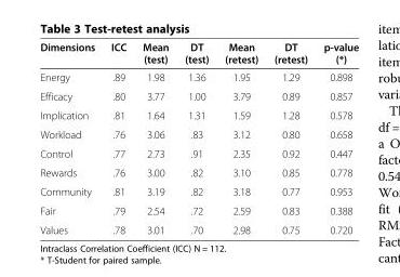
<table><thead><tr><td>Dimensions</td><td>ICC</td><td>Mean (test)</td><td>DT (test)</td><td>Mean (retest)</td><td>DT (retest)</td><td>p-value (*)</td></tr></thead><tbody><tr><td>Energy</td><td>.89</td><td>1.98</td><td>1.36</td><td>1.95</td><td>1.29</td><td>0.898</td></tr><tr><td>Efficacy</td><td>.80</td><td>3.77</td><td>1.00</td><td>3.79</td><td>0.89</td><td>0.857</td></tr><tr><td>Implication</td><td>.81</td><td>1.64</td><td>1.31</td><td>1.59</td><td>1.28</td><td>0.578</td></tr><tr><td>Workload</td><td>.76</td><td>3.06</td><td>.83</td><td>3.12</td><td>0.80</td><td>0.658</td></tr><tr><td>Control</td><td>.77</td><td>2.73</td><td>.91</td><td>2.35</td><td>0.92</td><td>0.447</td></tr><tr><td>Rewards</td><td>.76</td><td>3.00</td><td>.82</td><td>3.10</td><td>0.85</td><td>0.778</td></tr><tr><td>Community</td><td>.81</td><td>3.19</td><td>.82</td><td>3.18</td><td>0.77</td><td>0.953</td></tr><tr><td>Fair</td><td>.79</td><td>2.54</td><td>.72</td><td>2.59</td><td>0.83</td><td>0.388</td></tr><tr><td>Values</td><td>.78</td><td>3.01</td><td>.70</td><td>2.98</td><td>0.75</td><td>0.720</td></tr></tbody></table>